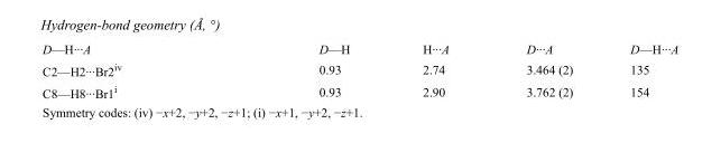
<table><tbody><tr><td>D—H···A</td><td>D—H</td><td>H···A</td><td>D···A</td><td>D—H···A</td></tr><tr><td>C2—H2···Br2<sup>iv</sup></td><td>0.93</td><td>2.74</td><td>3.464 (2)</td><td>135</td></tr><tr><td>C8—H8···Br1<sup>i</sup></td><td>0.93</td><td>2.90</td><td>3.762 (2)</td><td>154</td></tr></tbody></table>